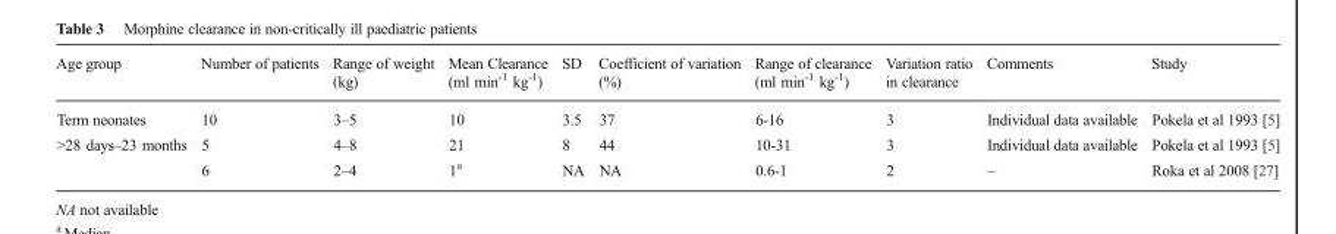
<table><thead><tr><td>Age group</td><td>Number of patients</td><td>Range of weight (kg)</td><td>Mean Clearance (ml min<sup>-1</sup> kg<sup>-1</sup>)</td><td>SD</td><td>Coefficient of variation (%)</td><td>Range of clearance (ml min<sup>-1</sup> kg<sup>-1</sup>)</td><td>Variation ratio in clearance</td><td>Comments</td><td>Study</td></tr></thead><tbody><tr><td>Term neonates</td><td>10</td><td>3–5</td><td>10</td><td>3.5</td><td>37</td><td>6-16</td><td>3</td><td>Individual data available</td><td>Pokela et al 1993 [5]</td></tr><tr><td rowspan="2">&gt;28 days–23 months</td><td>5</td><td>4–8</td><td>21</td><td>8</td><td>44</td><td>10-31</td><td>3</td><td>Individual data available</td><td>Pokela et al 1993 [5]</td></tr><tr><td>6</td><td>2–4</td><td>1<sup>a</sup></td><td>NA</td><td>NA</td><td>0.6-1</td><td>2</td><td>–</td><td>Roka et al 2008 [27]</td></tr></tbody></table>